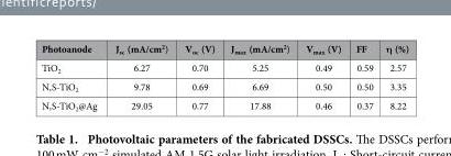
<table><thead><tr><td>Photoanode</td><td>J<sub>sc</sub> (mA/cm<sup>2</sup>)</td><td>V<sub>oc</sub> (V)</td><td>J<sub>max</sub> (mA/cm<sup>2</sup>)</td><td>V<sub>max</sub> (V)</td><td>FF</td><td>η (%)</td></tr></thead><tbody><tr><td>TiO<sub>2</sub></td><td>6.27</td><td>0.70</td><td>5.25</td><td>0.49</td><td>0.59</td><td>2.57</td></tr><tr><td>N,S-TiO<sub>2</sub></td><td>9.78</td><td>0.69</td><td>6.69</td><td>0.50</td><td>0.50</td><td>3.35</td></tr><tr><td>N,S-TiO<sub>2</sub>@Ag</td><td>29.05</td><td>0.77</td><td>17.88</td><td>0.46</td><td>0.37</td><td>8.22</td></tr></tbody></table>